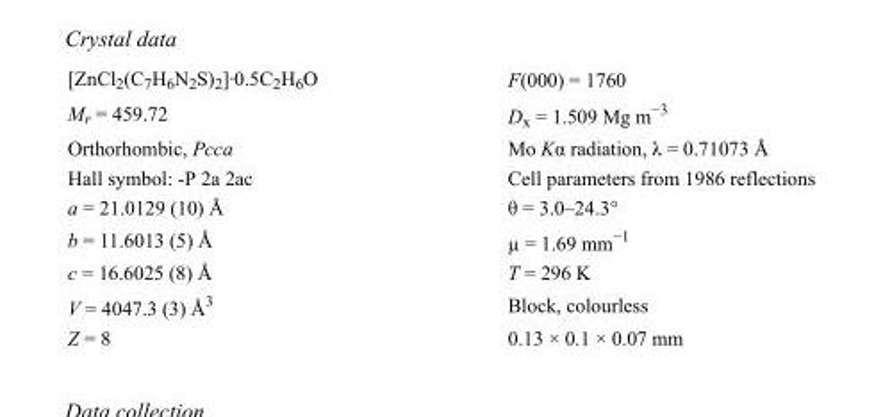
<table><tbody><tr><td>[ZnCl<sub>2</sub>(C<sub>7</sub>H<sub>6</sub>N<sub>2</sub>S)<sub>2</sub>]·0.5C<sub>2</sub>H<sub>6</sub>O</td><td>F(000) = 1760</td></tr><tr><td>M<sub>r</sub> = 459.72</td><td>D<sub>x</sub> = 1.509 Mg m<sup>−3</sup></td></tr><tr><td>Orthorhombic, Pcca</td><td>Mo Kα radiation, λ = 0.71073 Å</td></tr><tr><td>Hall symbol: -P 2a 2ac</td><td>Cell parameters from 1986 reflections</td></tr><tr><td>a = 21.0129 (10) Å</td><td>θ = 3.0–24.3°</td></tr><tr><td>b = 11.6013 (5) Å</td><td>µ = 1.69 mm<sup>−1</sup></td></tr><tr><td>c = 16.6025 (8) Å</td><td>T = 296 K</td></tr><tr><td>V = 4047.3 (3) Å<sup>3</sup></td><td>Block, colourless</td></tr><tr><td>Z = 8</td><td>0.13 × 0.1 × 0.07 mm</td></tr></tbody></table>